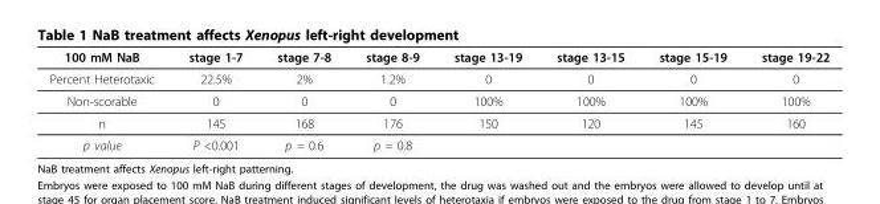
<table><thead><tr><td>100 mM NaB</td><td>stage 1-7</td><td>stage 7-8</td><td>stage 8-9</td><td>stage 13-19</td><td>stage 13-15</td><td>stage 15-19</td><td>stage 19-22</td></tr></thead><tbody><tr><td>Percent Heterotaxic</td><td>22.5%</td><td>2%</td><td>1.2%</td><td>0</td><td>0</td><td>0</td><td>0</td></tr><tr><td>Non-scorable</td><td>0</td><td>0</td><td>0</td><td>100%</td><td>100%</td><td>100%</td><td>100%</td></tr><tr><td>n</td><td>145</td><td>168</td><td>176</td><td>150</td><td>120</td><td>145</td><td>160</td></tr><tr><td>p value</td><td>P &lt;0.001</td><td>p = 0.6</td><td>p = 0.8</td><td></td><td></td><td></td><td></td></tr></tbody></table>